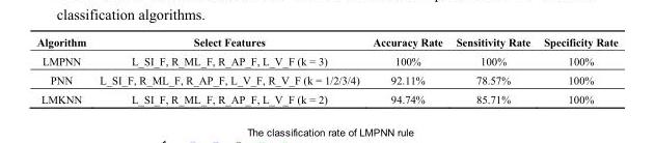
<table><thead><tr><td>Algorithm</td><td>Select Features</td><td>Accuracy Rate</td><td>Sensitivity Rate</td><td>Specificity Rate</td></tr></thead><tbody><tr><td>LMPNN</td><td>L_SI_F, R_ML_F, R_AP_F, L_V_F (k = 3)</td><td>100%</td><td>100%</td><td>100%</td></tr><tr><td>PNN</td><td>L_SI_F, R_ML_F, R_AP_F, L_V_F, R_V_F (k = 1/2/3/4)</td><td>92.11%</td><td>78.57%</td><td>100%</td></tr><tr><td>LMKNN</td><td>L_SI_F, R_ML_F, R_AP_F, L_V_F (k = 2)</td><td>94.74%</td><td>85.71%</td><td>100%</td></tr></tbody></table>